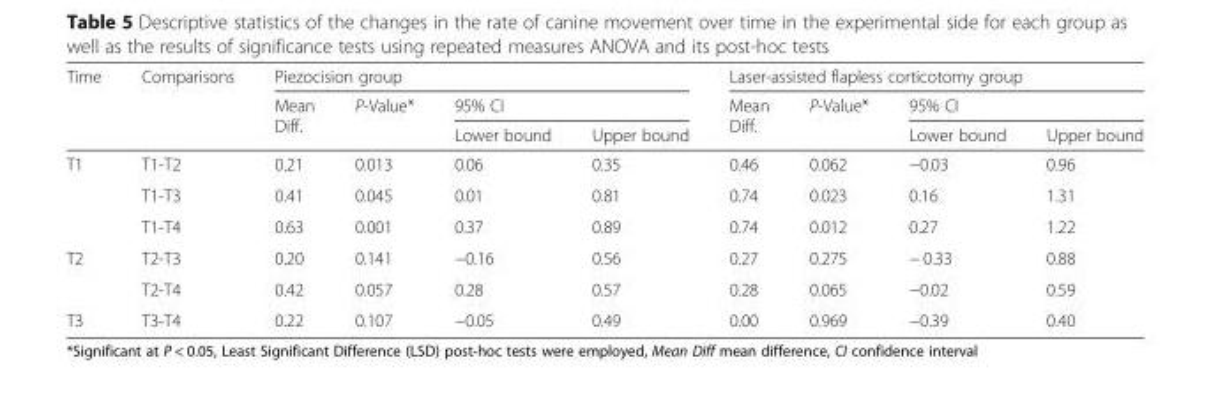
<table><thead><tr><td rowspan="3">Time</td><td rowspan="3">Comparisons</td><td colspan="4">Piezocision group</td><td colspan="4">Laser-assisted flapless corticotomy group</td></tr><tr><td rowspan="2">Mean Diff.</td><td rowspan="2">P-Value*</td><td colspan="2">95% CI</td><td rowspan="2">Mean Diff.</td><td rowspan="2">P-Value*</td><td colspan="2">95% CI</td></tr><tr><td>Lower bound</td><td>Upper bound</td><td>Lower bound</td><td>Upper bound</td></tr></thead><tbody><tr><td rowspan="3">T1</td><td>T1-T2</td><td>0.21</td><td>0.013</td><td>0.06</td><td>0.35</td><td>0.46</td><td>0.062</td><td>−0.03</td><td>0.96</td></tr><tr><td>T1-T3</td><td>0.41</td><td>0.045</td><td>0.01</td><td>0.81</td><td>0.74</td><td>0.023</td><td>0.16</td><td>1.31</td></tr><tr><td>T1-T4</td><td>0.63</td><td>0.001</td><td>0.37</td><td>0.89</td><td>0.74</td><td>0.012</td><td>0.27</td><td>1.22</td></tr><tr><td rowspan="2">T2</td><td>T2-T3</td><td>0.20</td><td>0.141</td><td>−0.16</td><td>0.56</td><td>0.27</td><td>0.275</td><td>− 0.33</td><td>0.88</td></tr><tr><td>T2-T4</td><td>0.42</td><td>0.057</td><td>0.28</td><td>0.57</td><td>0.28</td><td>0.065</td><td>−0.02</td><td>0.59</td></tr><tr><td>T3</td><td>T3-T4</td><td>0.22</td><td>0.107</td><td>−0.05</td><td>0.49</td><td>0.00</td><td>0.969</td><td>−0.39</td><td>0.40</td></tr></tbody></table>